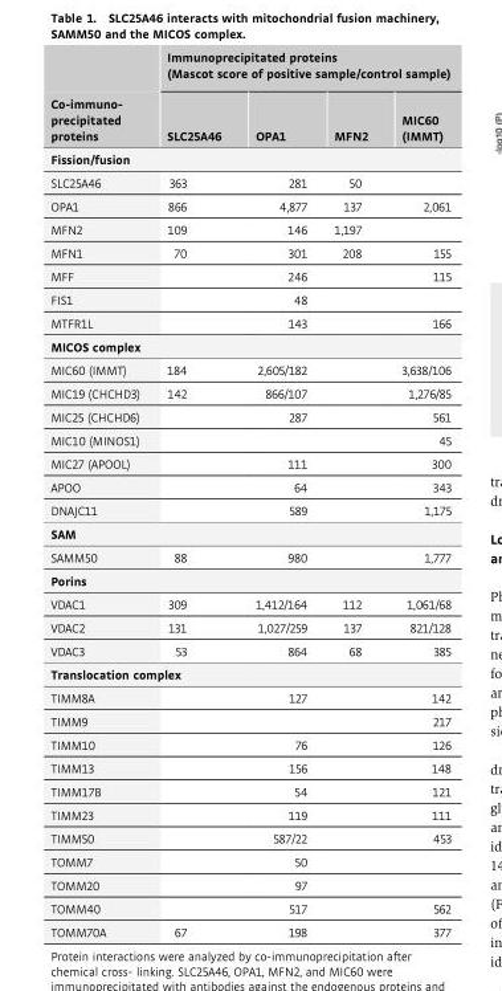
<table><thead><tr><td rowspan="2">Co-immuno- precipitated proteins</td><td colspan="4">Immunoprecipitated proteins (Mascot score of positive sample/control sample)</td></tr><tr><td>SLC25A46</td><td>OPA1</td><td>MFN2</td><td>MIC60 (IMMT)</td></tr></thead><tbody><tr><td colspan="5">Fission/fusion</td></tr><tr><td>SLC25A46</td><td>363</td><td>281</td><td>50</td><td></td></tr><tr><td>OPA1</td><td>866</td><td>4,877</td><td>137</td><td>2,061</td></tr><tr><td>MFN2</td><td>109</td><td>146</td><td>1,197</td><td></td></tr><tr><td>MFN1</td><td>70</td><td>301</td><td>208</td><td>155</td></tr><tr><td>MFF</td><td></td><td>246</td><td></td><td>115</td></tr><tr><td>FIS1</td><td></td><td>48</td><td></td><td></td></tr><tr><td>MTFR1L</td><td></td><td>143</td><td></td><td>166</td></tr><tr><td colspan="5">MICOS complex</td></tr><tr><td>MIC60 (IMMT)</td><td>184</td><td>2,605/182</td><td></td><td>3,638/106</td></tr><tr><td>MIC19 (CHCHD3)</td><td>142</td><td>866/107</td><td></td><td>1,276/85</td></tr><tr><td>MIC25 (CHCHD6)</td><td></td><td>287</td><td></td><td>561</td></tr><tr><td>MIC10 (MINOS1)</td><td></td><td></td><td></td><td>45</td></tr><tr><td>MIC27 (APOOL)</td><td></td><td>111</td><td></td><td>300</td></tr><tr><td>APOO</td><td></td><td>64</td><td></td><td>343</td></tr><tr><td>DNAJC11</td><td></td><td>589</td><td></td><td>1,175</td></tr><tr><td colspan="5">SAM</td></tr><tr><td>SAMM50</td><td>88</td><td>980</td><td></td><td>1,777</td></tr><tr><td colspan="5">Porins</td></tr><tr><td>VDAC1</td><td>309</td><td>1,412/164</td><td>112</td><td>1,061/68</td></tr><tr><td>VDAC2</td><td>131</td><td>1,027/259</td><td>137</td><td>821/128</td></tr><tr><td>VDAC3</td><td>53</td><td>864</td><td>68</td><td>385</td></tr><tr><td colspan="5">Translocation complex</td></tr><tr><td>TIMM8A</td><td></td><td>127</td><td></td><td>142</td></tr><tr><td>TIMM9</td><td></td><td></td><td></td><td>217</td></tr><tr><td>TIMM10</td><td></td><td>76</td><td></td><td>126</td></tr><tr><td>TIMM13</td><td></td><td>156</td><td></td><td>148</td></tr><tr><td>TIMM17B</td><td></td><td>54</td><td></td><td>121</td></tr><tr><td>TIMM23</td><td></td><td>119</td><td></td><td>111</td></tr><tr><td>TIMM50</td><td></td><td>587/22</td><td></td><td>453</td></tr><tr><td>TOMM7</td><td></td><td>50</td><td></td><td></td></tr><tr><td>TOMM20</td><td></td><td>97</td><td></td><td></td></tr><tr><td>TOMM40</td><td></td><td>517</td><td></td><td>562</td></tr><tr><td>TOMM70A</td><td>67</td><td>198</td><td></td><td>377</td></tr></tbody></table>